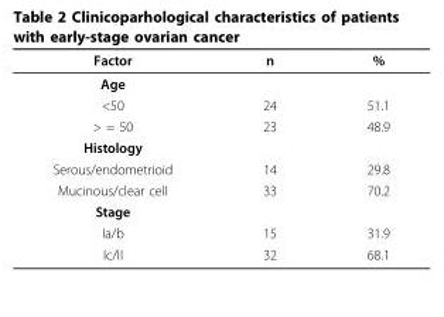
<table><thead><tr><td>Factor</td><td>n</td><td>%</td></tr></thead><tbody><tr><td colspan="3">Age</td></tr><tr><td>&lt;50</td><td>24</td><td>51.1</td></tr><tr><td>&gt; = 50</td><td>23</td><td>48.9</td></tr><tr><td colspan="3">Histology</td></tr><tr><td>Serous/endometrioid</td><td>14</td><td>29.8</td></tr><tr><td>Mucinous/clear cell</td><td>33</td><td>70.2</td></tr><tr><td colspan="3">Stage</td></tr><tr><td>Ia/b</td><td>15</td><td>31.9</td></tr><tr><td>Ic/II</td><td>32</td><td>68.1</td></tr></tbody></table>